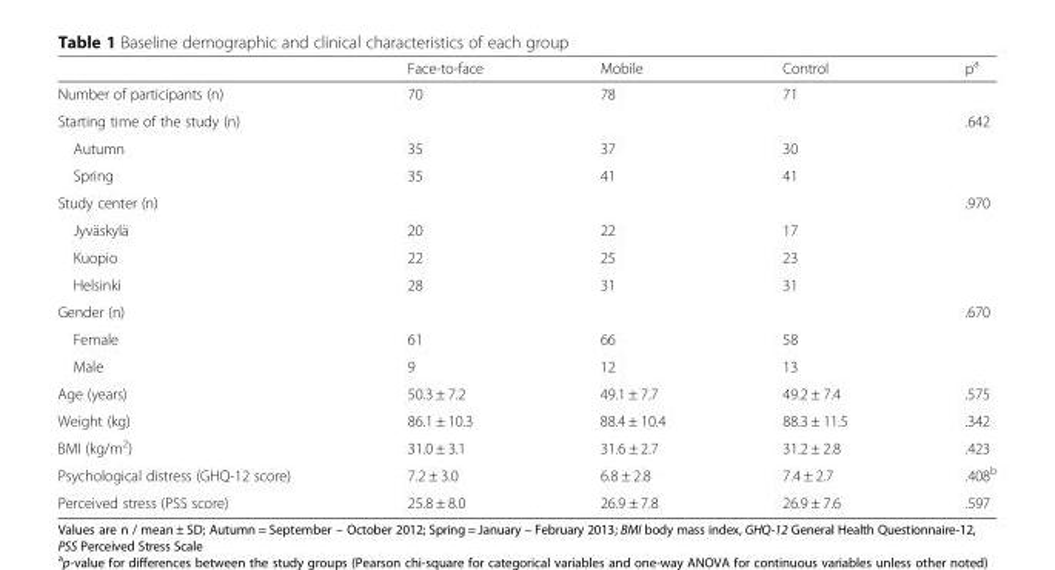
<table><thead><tr><td></td><td>Face-to-face</td><td>Mobile</td><td>Control</td><td>p<sup>a</sup></td></tr></thead><tbody><tr><td>Number of participants (n)</td><td>70</td><td>78</td><td>71</td><td></td></tr><tr><td>Starting time of the study (n)</td><td></td><td></td><td></td><td>.642</td></tr><tr><td>Autumn</td><td>35</td><td>37</td><td>30</td><td rowspan="2"></td></tr><tr><td>Spring</td><td>35</td><td>41</td><td>41</td></tr><tr><td>Study center (n)</td><td></td><td></td><td></td><td>.970</td></tr><tr><td>Jyväskylä</td><td>20</td><td>22</td><td>17</td><td rowspan="3"></td></tr><tr><td>Kuopio</td><td>22</td><td>25</td><td>23</td></tr><tr><td>Helsinki</td><td>28</td><td>31</td><td>31</td></tr><tr><td>Gender (n)</td><td></td><td></td><td></td><td>.670</td></tr><tr><td>Female</td><td>61</td><td>66</td><td>58</td><td rowspan="2"></td></tr><tr><td>Male</td><td>9</td><td>12</td><td>13</td></tr><tr><td>Age (years)</td><td>50.3 ± 7.2</td><td>49.1 ± 7.7</td><td>49.2 ± 7.4</td><td>.575</td></tr><tr><td>Weight (kg)</td><td>86.1 ± 10.3</td><td>88.4 ± 10.4</td><td>88.3 ± 11.5</td><td>.342</td></tr><tr><td>BMI (kg/m<sup>2</sup>)</td><td>31.0 ± 3.1</td><td>31.6 ± 2.7</td><td>31.2 ± 2.8</td><td>.423</td></tr><tr><td>Psychological distress (GHQ-12 score)</td><td>7.2 ± 3.0</td><td>6.8 ± 2.8</td><td>7.4 ± 2.7</td><td>.408<sup>b</sup></td></tr><tr><td>Perceived stress (PSS score)</td><td>25.8 ± 8.0</td><td>26.9 ± 7.8</td><td>26.9 ± 7.6</td><td>.597</td></tr></tbody></table>